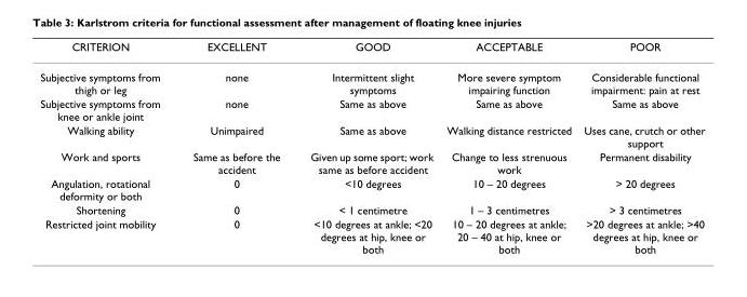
<table><thead><tr><td>CRITERION</td><td>EXCELLENT</td><td>GOOD</td><td>ACCEPTABLE</td><td>POOR</td></tr></thead><tbody><tr><td>Subjective symptoms from thigh or leg</td><td>none</td><td>Intermittent slight symptoms</td><td>More severe symptom impairing function</td><td>Considerable functional impairment: pain at rest</td></tr><tr><td>Subjective symptoms from knee or ankle joint</td><td>none</td><td>Same as above</td><td>Same as above</td><td>Same as above</td></tr><tr><td>Walking ability</td><td>Unimpaired</td><td>Same as above</td><td>Walking distance restricted</td><td>Uses cane, crutch or other support</td></tr><tr><td>Work and sports</td><td>Same as before the accident</td><td>Given up some sport; work same as before accident</td><td>Change to less strenuous work</td><td>Permanent disability</td></tr><tr><td>Angulation, rotational deformity or both</td><td>0</td><td>&lt;10 degrees</td><td>10 – 20 degrees</td><td>&gt; 20 degrees</td></tr><tr><td>Shortening</td><td>0</td><td>&lt; 1 centimetre</td><td>1 – 3 centimetres</td><td>&gt; 3 centimetres</td></tr><tr><td>Restricted joint mobility</td><td>0</td><td>&lt;10 degrees at ankle; &lt;20 degrees at hip, knee or both</td><td>10 – 20 degrees at ankle; 20 – 40 at hip, knee or both</td><td>&gt;20 degrees at ankle; &gt;40 degrees at hip, knee or both</td></tr></tbody></table>